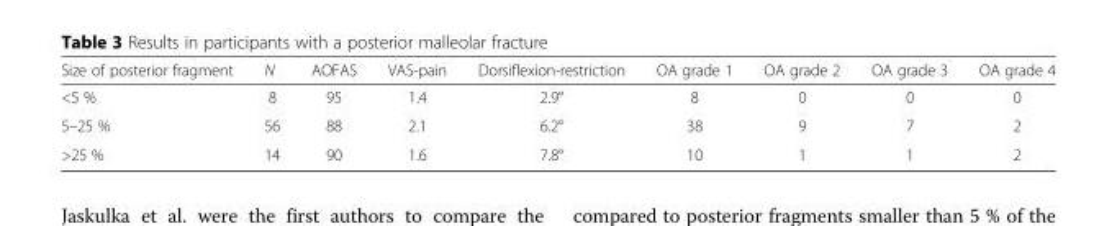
<table><thead><tr><td>Size of posterior fragment</td><td>N</td><td>AOFAS</td><td>VAS-pain</td><td>Dorsiflexion-restriction</td><td>OA grade 1</td><td>OA grade 2</td><td>OA grade 3</td><td>OA grade 4</td></tr></thead><tbody><tr><td>&lt;5 %</td><td>8</td><td>95</td><td>1.4</td><td>2.9°</td><td>8</td><td>0</td><td>0</td><td>0</td></tr><tr><td>5–25 %</td><td>56</td><td>88</td><td>2.1</td><td>6.2°</td><td>38</td><td>9</td><td>7</td><td>2</td></tr><tr><td>&gt;25 %</td><td>14</td><td>90</td><td>1.6</td><td>7.8°</td><td>10</td><td>1</td><td>1</td><td>2</td></tr></tbody></table>